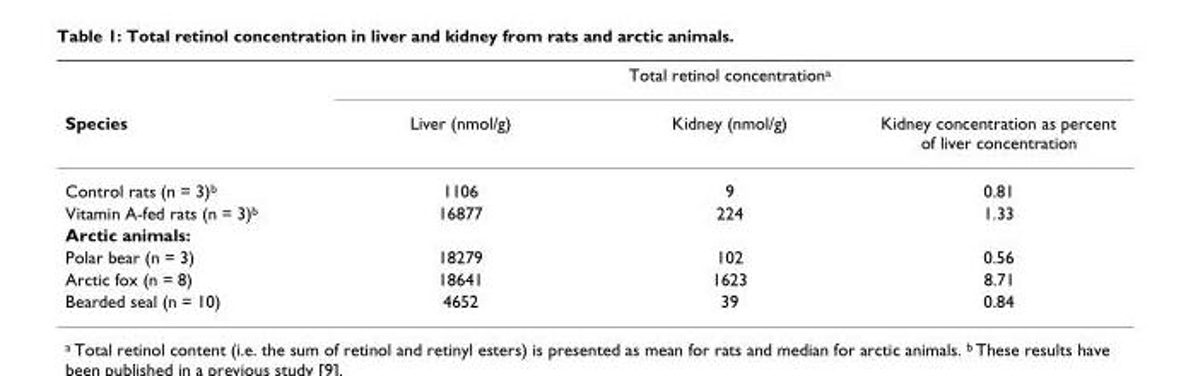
<table><thead><tr><td rowspan="2">Species</td><td colspan="3">Total retinol concentration<sup>a</sup></td></tr><tr><td>Liver (nmol/g)</td><td>Kidney (nmol/g)</td><td>Kidney concentration as percent of liver concentration</td></tr></thead><tbody><tr><td>Control rats (n = 3)<sup>b</sup></td><td>1106</td><td>9</td><td>0.81</td></tr><tr><td>Vitamin A-fed rats (n = 3)<sup>b</sup></td><td>16877</td><td>224</td><td>1.33</td></tr><tr><td colspan="4">Arctic animals:</td></tr><tr><td>Polar bear (n = 3)</td><td>18279</td><td>102</td><td>0.56</td></tr><tr><td>Arctic fox (n = 8)</td><td>18641</td><td>1623</td><td>8.71</td></tr><tr><td>Bearded seal (n = 10)</td><td>4652</td><td>39</td><td>0.84</td></tr></tbody></table>